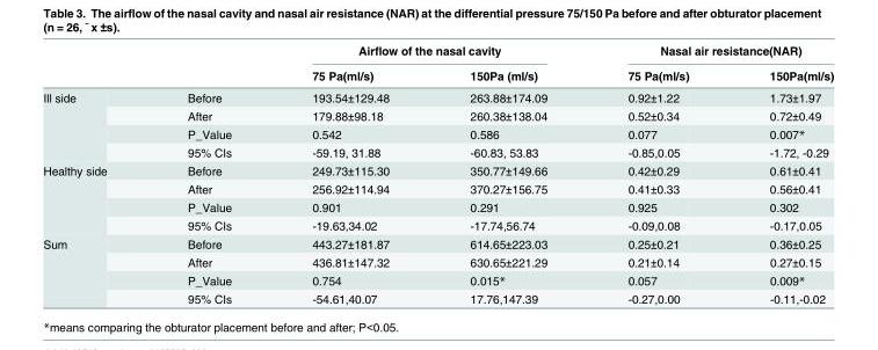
<table><thead><tr><td rowspan="2"></td><td rowspan="2"></td><td colspan="2">Airflow of the nasal cavity</td><td colspan="2">Nasal air resistance(NAR)</td></tr><tr><td>75 Pa(ml/s)</td><td>150Pa (ml/s)</td><td>75 Pa(ml/s)</td><td>150Pa(ml/s)</td></tr></thead><tbody><tr><td rowspan="4">Ill side</td><td>Before</td><td>193.54±129.48</td><td>263.88±174.09</td><td>0.92±1.22</td><td>1.73±1.97</td></tr><tr><td>After</td><td>179.88±98.18</td><td>260.38±138.04</td><td>0.52±0.34</td><td>0.72±0.49</td></tr><tr><td>P_Value</td><td>0.542</td><td>0.586</td><td>0.077</td><td>0.007*</td></tr><tr><td>95% CIs</td><td>-59.19, 31.88</td><td>-60.83, 53.83</td><td>-0.85,0.05</td><td>-1.72, -0.29</td></tr><tr><td rowspan="4">Healthy side</td><td>Before</td><td>249.73±115.30</td><td>350.77±149.66</td><td>0.42±0.29</td><td>0.61±0.41</td></tr><tr><td>After</td><td>256.92±114.94</td><td>370.27±156.75</td><td>0.41±0.33</td><td>0.56±0.41</td></tr><tr><td>P_Value</td><td>0.901</td><td>0.291</td><td>0.925</td><td>0.302</td></tr><tr><td>95% CIs</td><td>-19.63,34.02</td><td>-17.74,56.74</td><td>-0.09,0.08</td><td>-0.17,0.05</td></tr><tr><td rowspan="4">Sum</td><td>Before</td><td>443.27±181.87</td><td>614.65±223.03</td><td>0.25±0.21</td><td>0.36±0.25</td></tr><tr><td>After</td><td>436.81±147.32</td><td>630.65±221.29</td><td>0.21±0.14</td><td>0.27±0.15</td></tr><tr><td>P_Value</td><td>0.754</td><td>0.015*</td><td>0.057</td><td>0.009*</td></tr><tr><td>95% CIs</td><td>-54.61,40.07</td><td>17.76,147.39</td><td>-0.27,0.00</td><td>-0.11,-0.02</td></tr></tbody></table>